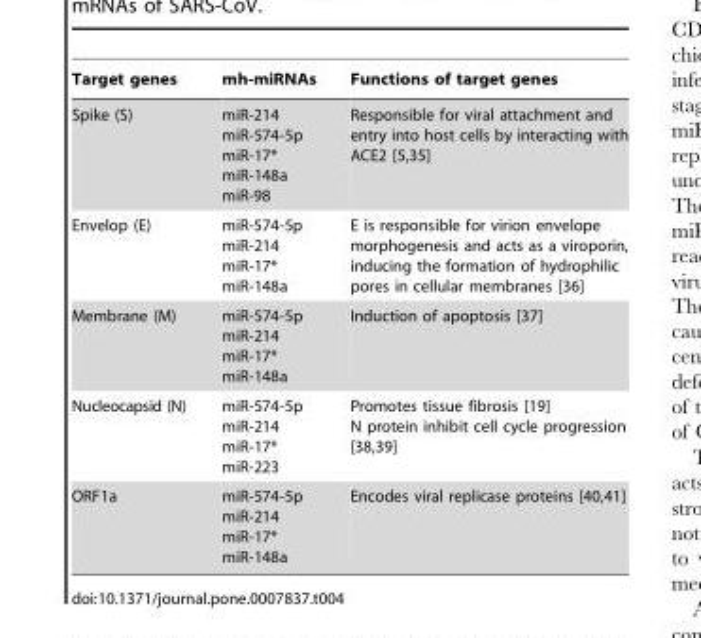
<table><thead><tr><td>Target genes</td><td>mh-miRNAs</td><td>Functions of target genes</td></tr></thead><tbody><tr><td>Spike (S)</td><td>miR-214 miR-574-5p miR-17* miR-148a miR-98</td><td>Responsible for viral attachment and entry into host cells by interacting with ACE2 [5,35]</td></tr><tr><td>Envelop (E)</td><td>miR-574-5p miR-214 miR-17* miR-148a</td><td>E is responsible for virion envelope morphogenesis and acts as a viroporin, inducing the formation of hydrophilic pores in cellular membranes [36]</td></tr><tr><td>Membrane (M)</td><td>miR-574-5p miR-214 miR-17* miR-148a</td><td>Induction of apoptosis [37]</td></tr><tr><td>Nucleocapsid (N)</td><td>miR-574-5p miR-214 miR-17* miR-223</td><td>Promotes tissue fibrosis [19] N protein inhibit cell cycle progression [38,39]</td></tr><tr><td>ORF1a</td><td>miR-574-5p miR-214 miR-17* miR-148a</td><td>Encodes viral replicase proteins [40,41]</td></tr></tbody></table>